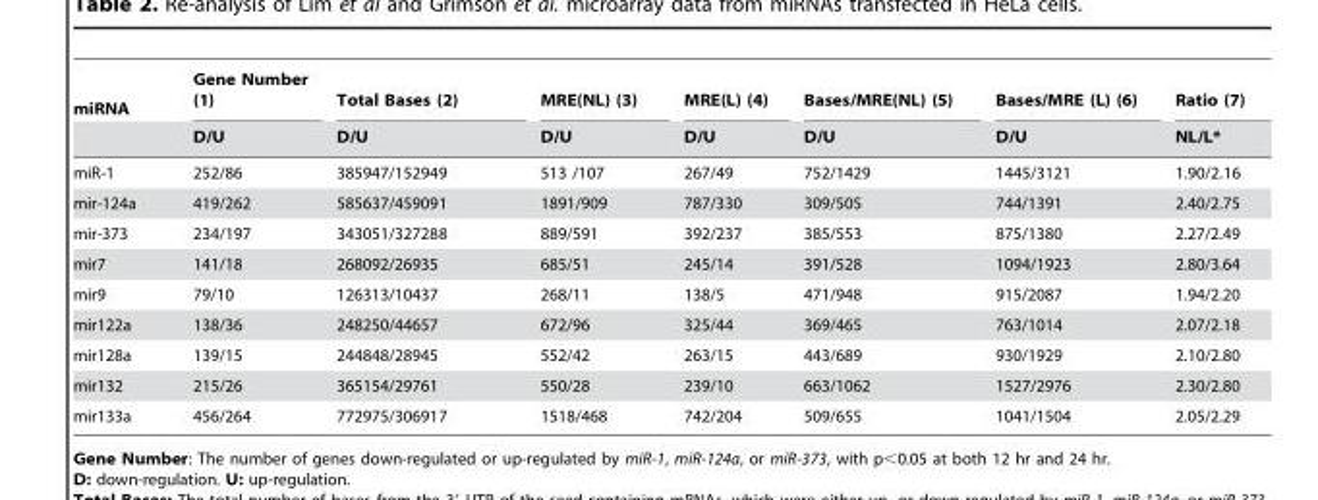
<table><thead><tr><td rowspan="2">miRNA</td><td rowspan="2">Gene Number (1) D/U</td><td rowspan="2">Total Bases (2) D/U</td><td rowspan="2">MRE(NL) (3) D/U</td><td rowspan="2">MRE(L) (4) D/U</td><td rowspan="2">Bases/MRE(NL) (5) D/U</td><td rowspan="2">Bases/MRE (L) (6) D/U</td><td rowspan="2">Ratio (7) NL/L*</td></tr><tr></tr></thead><tbody><tr><td>miR-1</td><td>252/86</td><td>385947/152949</td><td>513 /107</td><td>267/49</td><td>752/1429</td><td>1445/3121</td><td>1.90/2.16</td></tr><tr><td>mir-124a</td><td>419/262</td><td>585637/459091</td><td>1891/909</td><td>787/330</td><td>309/505</td><td>744/1391</td><td>2.40/2.75</td></tr><tr><td>mir-373</td><td>234/197</td><td>343051/327288</td><td>889/591</td><td>392/237</td><td>385/553</td><td>875/1380</td><td>2.27/2.49</td></tr><tr><td>mir7</td><td>141/18</td><td>268092/26935</td><td>685/51</td><td>245/14</td><td>391/528</td><td>1094/1923</td><td>2.80/3.64</td></tr><tr><td>mir9</td><td>79/10</td><td>126313/10437</td><td>268/11</td><td>138/5</td><td>471/948</td><td>915/2087</td><td>1.94/2.20</td></tr><tr><td>mir122a</td><td>138/36</td><td>248250/44657</td><td>672/96</td><td>325/44</td><td>369/465</td><td>763/1014</td><td>2.07/2.18</td></tr><tr><td>mir128a</td><td>139/15</td><td>244848/28945</td><td>552/42</td><td>263/15</td><td>443/689</td><td>930/1929</td><td>2.10/2.80</td></tr><tr><td>mir132</td><td>215/26</td><td>365154/29761</td><td>550/28</td><td>239/10</td><td>663/1062</td><td>1527/2976</td><td>2.30/2.80</td></tr><tr><td>mir133a</td><td>456/264</td><td>772975/306917</td><td>1518/468</td><td>742/204</td><td>509/655</td><td>1041/1504</td><td>2.05/2.29</td></tr></tbody></table>